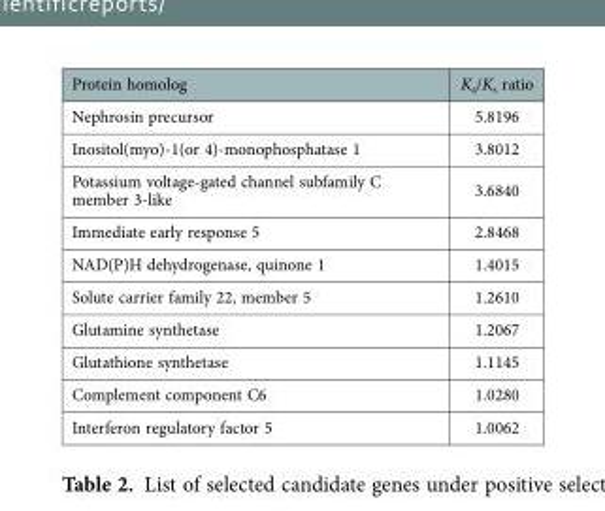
<table><thead><tr><td>Protein homolog</td><td>K<sub>a</sub>/K<sub>s</sub> ratio</td></tr></thead><tbody><tr><td>Nephrosin precursor</td><td>5.8196</td></tr><tr><td>Inositol(myo)-1(or 4)-monophosphatase 1</td><td>3.8012</td></tr><tr><td>Potassium voltage-gated channel subfamily C member 3-like</td><td>3.6840</td></tr><tr><td>Immediate early response 5</td><td>2.8468</td></tr><tr><td>NAD(P)H dehydrogenase, quinone 1</td><td>1.4015</td></tr><tr><td>Solute carrier family 22, member 5</td><td>1.2610</td></tr><tr><td>Glutamine synthetase</td><td>1.2067</td></tr><tr><td>Glutathione synthetase</td><td>1.1145</td></tr><tr><td>Complement component C6</td><td>1.0280</td></tr><tr><td>Interferon regulatory factor 5</td><td>1.0062</td></tr></tbody></table>